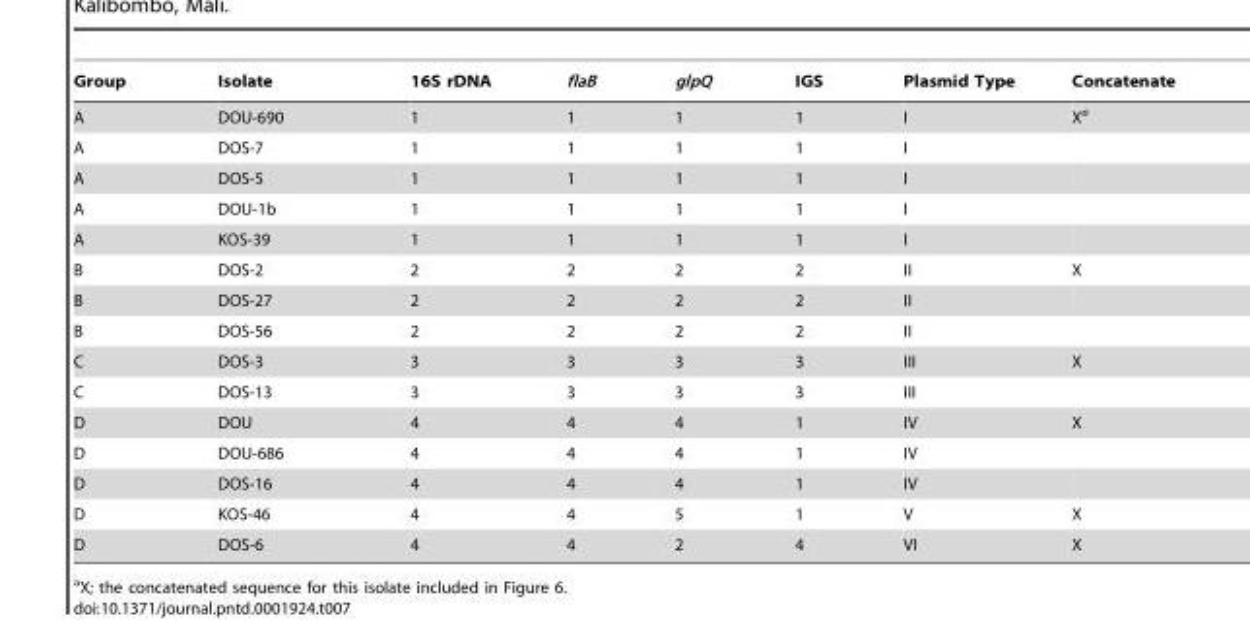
<table><thead><tr><td>Group</td><td>Isolate</td><td>16S rDNA</td><td>flaB</td><td>glpQ</td><td>IGS</td><td>Plasmid Type</td><td>Concatenate</td></tr></thead><tbody><tr><td>A</td><td>DOU-690</td><td>1</td><td>1</td><td>1</td><td>1</td><td>I</td><td>X<sup>a</sup></td></tr><tr><td>A</td><td>DOS-7</td><td>1</td><td>1</td><td>1</td><td>1</td><td>I</td><td></td></tr><tr><td>A</td><td>DOS-5</td><td>1</td><td>1</td><td>1</td><td>1</td><td>I</td><td></td></tr><tr><td>A</td><td>DOU-1b</td><td>1</td><td>1</td><td>1</td><td>1</td><td>I</td><td></td></tr><tr><td>A</td><td>KOS-39</td><td>1</td><td>1</td><td>1</td><td>1</td><td>I</td><td></td></tr><tr><td>B</td><td>DOS-2</td><td>2</td><td>2</td><td>2</td><td>2</td><td>II</td><td>X</td></tr><tr><td>B</td><td>DOS-27</td><td>2</td><td>2</td><td>2</td><td>2</td><td>II</td><td></td></tr><tr><td>B</td><td>DOS-56</td><td>2</td><td>2</td><td>2</td><td>2</td><td>II</td><td></td></tr><tr><td>C</td><td>DOS-3</td><td>3</td><td>3</td><td>3</td><td>3</td><td>III</td><td>X</td></tr><tr><td>C</td><td>DOS-13</td><td>3</td><td>3</td><td>3</td><td>3</td><td>III</td><td></td></tr><tr><td>D</td><td>DOU</td><td>4</td><td>4</td><td>4</td><td>1</td><td>IV</td><td>X</td></tr><tr><td>D</td><td>DOU-686</td><td>4</td><td>4</td><td>4</td><td>1</td><td>IV</td><td></td></tr><tr><td>D</td><td>DOS-16</td><td>4</td><td>4</td><td>4</td><td>1</td><td>IV</td><td></td></tr><tr><td>D</td><td>KOS-46</td><td>4</td><td>4</td><td>5</td><td>1</td><td>V</td><td>X</td></tr><tr><td>D</td><td>DOS-6</td><td>4</td><td>4</td><td>2</td><td>4</td><td>VI</td><td>X</td></tr></tbody></table>